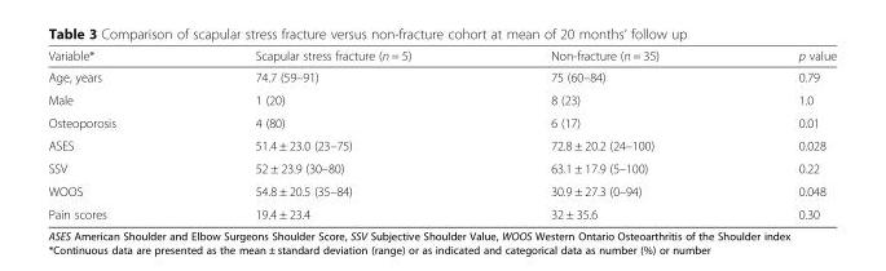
<table><thead><tr><td>Variable*</td><td>Scapular stress fracture (n = 5)</td><td>Non-fracture (n = 35)</td><td>p value</td></tr></thead><tbody><tr><td>Age, years</td><td>74.7 (59–91)</td><td>75 (60–84)</td><td>0.79</td></tr><tr><td>Male</td><td>1 (20)</td><td>8 (23)</td><td>1.0</td></tr><tr><td>Osteoporosis</td><td>4 (80)</td><td>6 (17)</td><td>0.01</td></tr><tr><td>ASES</td><td>51.4 ± 23.0 (23–75)</td><td>72.8 ± 20.2 (24–100)</td><td>0.028</td></tr><tr><td>SSV</td><td>52 ± 23.9 (30–80)</td><td>63.1 ± 17.9 (5–100)</td><td>0.22</td></tr><tr><td>WOOS</td><td>54.8 ± 20.5 (35–84)</td><td>30.9 ± 27.3 (0–94)</td><td>0.048</td></tr><tr><td>Pain scores</td><td>19.4 ± 23.4</td><td>32 ± 35.6</td><td>0.30</td></tr></tbody></table>